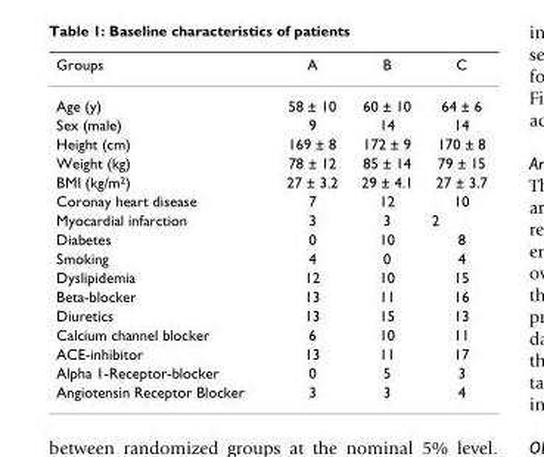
<table><thead><tr><td>Groups</td><td>A</td><td>B</td><td>C</td></tr></thead><tbody><tr><td>Age (y)</td><td>58 ± 10</td><td>60 ± 10</td><td>64 ± 6</td></tr><tr><td>Sex (male)</td><td>9</td><td>14</td><td>14</td></tr><tr><td>Height (cm)</td><td>169 ± 8</td><td>172 ± 9</td><td>170 ± 8</td></tr><tr><td>Weight (kg)</td><td>78 ± 12</td><td>85 ± 14</td><td>79 ± 15</td></tr><tr><td>BMI (kg/m<sup>2</sup>)</td><td>27 ± 3.2</td><td>29 ± 4.1</td><td>27 ± 3.7</td></tr><tr><td>Coronay heart disease</td><td>7</td><td>12</td><td>10</td></tr><tr><td>Myocardial infarction</td><td>3</td><td>3</td><td>2</td></tr><tr><td>Diabetes</td><td>0</td><td>10</td><td>8</td></tr><tr><td>Smoking</td><td>4</td><td>0</td><td>4</td></tr><tr><td>Dyslipidemia</td><td>12</td><td>10</td><td>15</td></tr><tr><td>Beta-blocker</td><td>13</td><td>11</td><td>16</td></tr><tr><td>Diuretics</td><td>13</td><td>15</td><td>13</td></tr><tr><td>Calcium channel blocker</td><td>6</td><td>10</td><td>11</td></tr><tr><td>ACE-inhibitor</td><td>13</td><td>11</td><td>17</td></tr><tr><td>Alpha 1-Receptor-blocker</td><td>0</td><td>5</td><td>3</td></tr><tr><td>Angiotensin Receptor Blocker</td><td>3</td><td>3</td><td>4</td></tr></tbody></table>